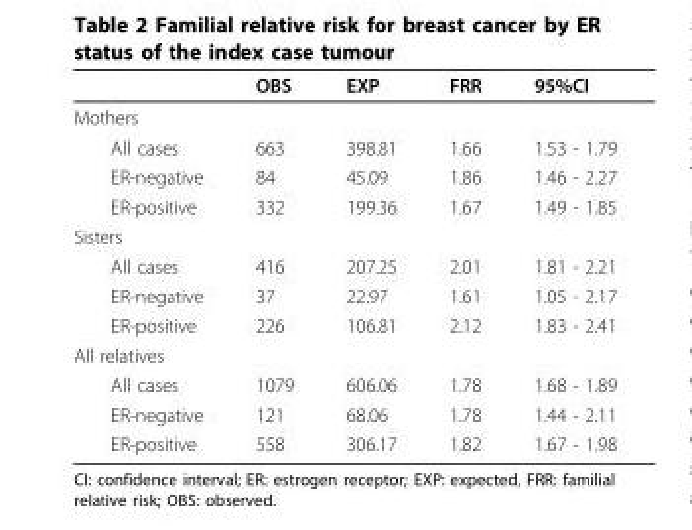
<table><thead><tr><td></td><td>OBS</td><td>EXP</td><td>FRR</td><td>95%CI</td></tr></thead><tbody><tr><td colspan="5">Mothers</td></tr><tr><td>All cases</td><td>663</td><td>398.81</td><td>1.66</td><td>1.53 - 1.79</td></tr><tr><td>ER-negative</td><td>84</td><td>45.09</td><td>1.86</td><td>1.46 - 2.27</td></tr><tr><td>ER-positive</td><td>332</td><td>199.36</td><td>1.67</td><td>1.49 - 1.85</td></tr><tr><td colspan="5">Sisters</td></tr><tr><td>All cases</td><td>416</td><td>207.25</td><td>2.01</td><td>1.81 - 2.21</td></tr><tr><td>ER-negative</td><td>37</td><td>22.97</td><td>1.61</td><td>1.05 - 2.17</td></tr><tr><td>ER-positive</td><td>226</td><td>106.81</td><td>2.12</td><td>1.83 - 2.41</td></tr><tr><td colspan="5">All relatives</td></tr><tr><td>All cases</td><td>1079</td><td>606.06</td><td>1.78</td><td>1.68 - 1.89</td></tr><tr><td>ER-negative</td><td>121</td><td>68.06</td><td>1.78</td><td>1.44 - 2.11</td></tr><tr><td>ER-positive</td><td>558</td><td>306.17</td><td>1.82</td><td>1.67 - 1.98</td></tr></tbody></table>